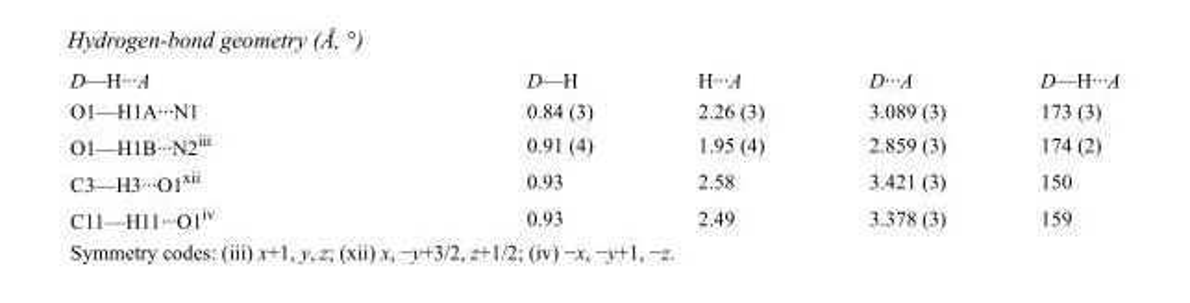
<table><tbody><tr><td>D—H···A</td><td>D—H</td><td>H···A</td><td>D···A</td><td>D—H···A</td></tr><tr><td>O1—H1A···N1</td><td>0.84 (3)</td><td>2.26 (3)</td><td>3.089 (3)</td><td>173 (3)</td></tr><tr><td>O1—H1B···N2<sup>iii</sup></td><td>0.91 (4)</td><td>1.95 (4)</td><td>2.859 (3)</td><td>174 (2)</td></tr><tr><td>C3—H3···O1<sup>xii</sup></td><td>0.93</td><td>2.58</td><td>3.421 (3)</td><td>150</td></tr><tr><td>C11—H11···O1<sup>iv</sup></td><td>0.93</td><td>2.49</td><td>3.378 (3)</td><td>159</td></tr></tbody></table>